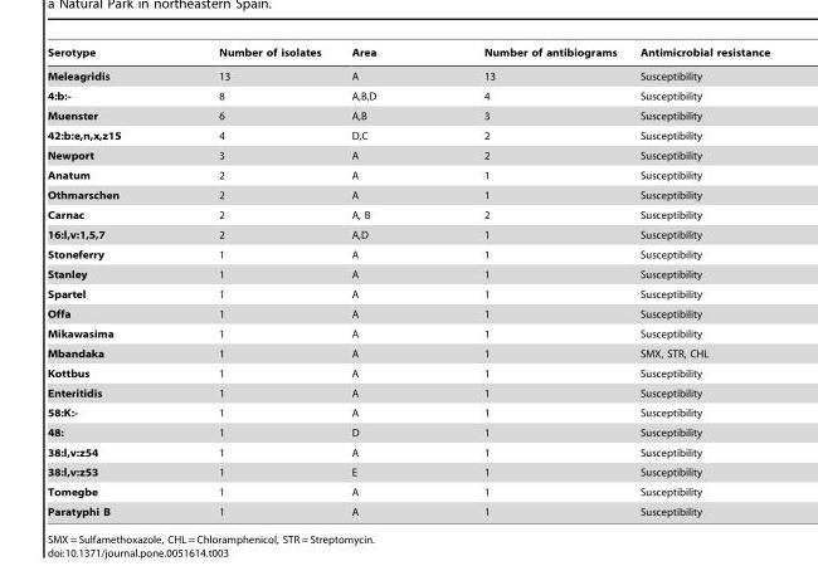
<table><thead><tr><td>Serotype</td><td>Number of isolates</td><td>Area</td><td>Number of antibiograms</td><td>Antimicrobial resistance</td></tr></thead><tbody><tr><td>Meleagridis</td><td>13</td><td>A</td><td>13</td><td>Susceptibility</td></tr><tr><td>4:b:-</td><td>8</td><td>A,B,D</td><td>4</td><td>Susceptibility</td></tr><tr><td>Muenster</td><td>6</td><td>A,B</td><td>3</td><td>Susceptibility</td></tr><tr><td>42:b:e,n,x,z15</td><td>4</td><td>D,C</td><td>2</td><td>Susceptibility</td></tr><tr><td>Newport</td><td>3</td><td>A</td><td>2</td><td>Susceptibility</td></tr><tr><td>Anatum</td><td>2</td><td>A</td><td>1</td><td>Susceptibility</td></tr><tr><td>Othmarschen</td><td>2</td><td>A</td><td>1</td><td>Susceptibility</td></tr><tr><td>Carnac</td><td>2</td><td>A, B</td><td>2</td><td>Susceptibility</td></tr><tr><td>16:l,v:1,5,7</td><td>2</td><td>A,D</td><td>1</td><td>Susceptibility</td></tr><tr><td>Stoneferry</td><td>1</td><td>A</td><td>1</td><td>Susceptibility</td></tr><tr><td>Stanley</td><td>1</td><td>A</td><td>1</td><td>Susceptibility</td></tr><tr><td>Spartel</td><td>1</td><td>A</td><td>1</td><td>Susceptibility</td></tr><tr><td>Offa</td><td>1</td><td>A</td><td>1</td><td>Susceptibility</td></tr><tr><td>Mikawasima</td><td>1</td><td>A</td><td>1</td><td>Susceptibility</td></tr><tr><td>Mbandaka</td><td>1</td><td>A</td><td>1</td><td>SMX, STR, CHL</td></tr><tr><td>Kottbus</td><td>1</td><td>A</td><td>1</td><td>Susceptibility</td></tr><tr><td>Enteritidis</td><td>1</td><td>A</td><td>1</td><td>Susceptibility</td></tr><tr><td>58:K:-</td><td>1</td><td>A</td><td>1</td><td>Susceptibility</td></tr><tr><td>48:</td><td>1</td><td>D</td><td>1</td><td>Susceptibility</td></tr><tr><td>38:l,v:z54</td><td>1</td><td>A</td><td>1</td><td>Susceptibility</td></tr><tr><td>38:l,v:z53</td><td>1</td><td>E</td><td>1</td><td>Susceptibility</td></tr><tr><td>Tomegbe</td><td>1</td><td>A</td><td>1</td><td>Susceptibility</td></tr><tr><td>Paratyphi B</td><td>1</td><td>A</td><td>1</td><td>Susceptibility</td></tr></tbody></table>